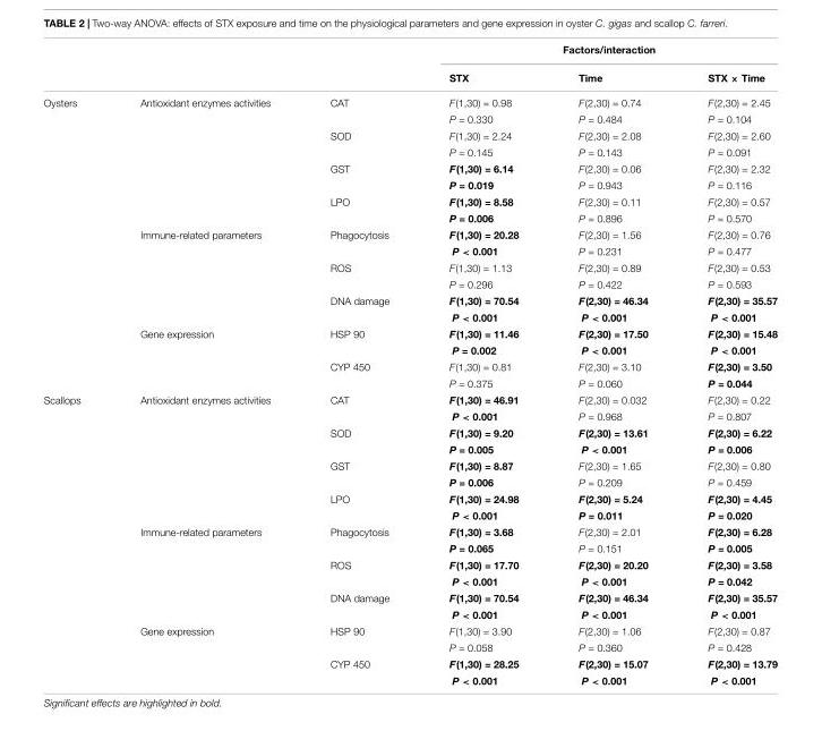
<table><thead><tr><td rowspan="2"></td><td rowspan="2"></td><td rowspan="2"></td><td colspan="3">Factors/interaction</td></tr><tr><td>STX</td><td>Time</td><td>STX × Time</td></tr></thead><tbody><tr><td rowspan="18">Oysters</td><td>Antioxidant enzymes activities</td><td>CAT</td><td>F(1,30) = 0.98</td><td>F(2,30) = 0.74</td><td>F(2,30) = 2.45</td></tr><tr><td></td><td></td><td>P = 0.330</td><td>P = 0.484</td><td>P = 0.104</td></tr><tr><td></td><td>SOD</td><td>F(1,30) = 2.24</td><td>F(2,30) = 2.08</td><td>F(2,30) = 2.60</td></tr><tr><td></td><td></td><td>P = 0.145</td><td>P = 0.143</td><td>P = 0.091</td></tr><tr><td></td><td>GST</td><td>F(1,30) = 6.14</td><td>F(2,30) = 0.06</td><td>F(2,30) = 2.32</td></tr><tr><td></td><td></td><td>P = 0.019</td><td>P = 0.943</td><td>P = 0.116</td></tr><tr><td></td><td>LPO</td><td>F(1,30) = 8.58</td><td>F(2,30) = 0.11</td><td>F(2,30) = 0.57</td></tr><tr><td></td><td></td><td>P = 0.006</td><td>P = 0.896</td><td>P = 0.570</td></tr><tr><td>Immune-related parameters</td><td>Phagocytosis</td><td>F(1,30) = 20.28</td><td>F(2,30) = 1.56</td><td>F(2,30) = 0.76</td></tr><tr><td></td><td></td><td>P &lt; 0.001</td><td>P = 0.231</td><td>P = 0.477</td></tr><tr><td></td><td>ROS</td><td>F(1,30) = 1.13</td><td>F(2,30) = 0.89</td><td>F(2,30) = 0.53</td></tr><tr><td></td><td></td><td>P = 0.296</td><td>P = 0.422</td><td>P = 0.593</td></tr><tr><td></td><td>DNA damage</td><td>F(1,30) = 70.54</td><td>F(2,30) = 46.34</td><td>F(2,30) = 35.57</td></tr><tr><td></td><td></td><td>P &lt; 0.001</td><td>P &lt; 0.001</td><td>P &lt; 0.001</td></tr><tr><td>Gene expression</td><td>HSP 90</td><td>F(1,30) = 11.46</td><td>F(2,30) = 17.50</td><td>F(2,30) = 15.48</td></tr><tr><td></td><td></td><td>P = 0.002</td><td>P &lt; 0.001</td><td>P &lt; 0.001</td></tr><tr><td></td><td>CYP 450</td><td>F(1,30) = 0.81</td><td>F(2,30) = 3.10</td><td>F(2,30) = 3.50</td></tr><tr><td></td><td></td><td>P = 0.375</td><td>P = 0.060</td><td>P = 0.044</td></tr><tr><td rowspan="18">Scallops</td><td>Antioxidant enzymes activities</td><td>CAT</td><td>F(1,30) = 46.91</td><td>F(2,30) = 0.032</td><td>F(2,30) = 0.22</td></tr><tr><td></td><td></td><td>P &lt; 0.001</td><td>P = 0.968</td><td>P = 0.807</td></tr><tr><td></td><td>SOD</td><td>F(1,30) = 9.20</td><td>F(2,30) = 13.61</td><td>F(2,30) = 6.22</td></tr><tr><td></td><td></td><td>P = 0.005</td><td>P &lt; 0.001</td><td>P = 0.006</td></tr><tr><td></td><td>GST</td><td>F(1,30) = 8.87</td><td>F(2,30) = 1.65</td><td>F(2,30) = 0.80</td></tr><tr><td></td><td></td><td>P = 0.006</td><td>P = 0.209</td><td>P = 0.459</td></tr><tr><td></td><td>LPO</td><td>F(1,30) = 24.98</td><td>F(2,30) = 5.24</td><td>F(2,30) = 4.45</td></tr><tr><td></td><td></td><td>P &lt; 0.001</td><td>P = 0.011</td><td>P = 0.020</td></tr><tr><td>Immune-related parameters</td><td>Phagocytosis</td><td>F(1,30) = 3.68</td><td>F(2,30) = 2.01</td><td>F(2,30) = 6.28</td></tr><tr><td></td><td></td><td>P = 0.065</td><td>P = 0.151</td><td>P = 0.005</td></tr><tr><td></td><td>ROS</td><td>F(1,30) = 17.70</td><td>F(2,30) = 20.20</td><td>F(2,30) = 3.58</td></tr><tr><td></td><td></td><td>P &lt; 0.001</td><td>P &lt; 0.001</td><td>P = 0.042</td></tr><tr><td></td><td>DNA damage</td><td>F(1,30) = 70.54</td><td>F(2,30) = 46.34</td><td>F(2,30) = 35.57</td></tr><tr><td></td><td></td><td>P &lt; 0.001</td><td>P &lt; 0.001</td><td>P &lt; 0.001</td></tr><tr><td>Gene expression</td><td>HSP 90</td><td>F(1,30) = 3.90</td><td>F(2,30) = 1.06</td><td>F(2,30) = 0.87</td></tr><tr><td></td><td></td><td>P = 0.058</td><td>P = 0.360</td><td>P = 0.428</td></tr><tr><td></td><td>CYP 450</td><td>F(1,30) = 28.25</td><td>F(2,30) = 15.07</td><td>F(2,30) = 13.79</td></tr><tr><td></td><td></td><td>P &lt; 0.001</td><td>P &lt; 0.001</td><td>P &lt; 0.001</td></tr></tbody></table>